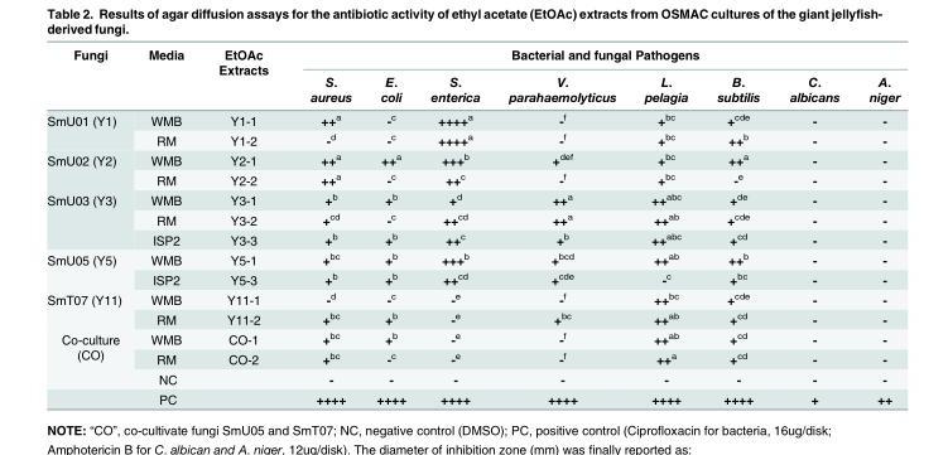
<table><thead><tr><td rowspan="2">Fungi</td><td rowspan="2">Media</td><td rowspan="2">EtOAc Extracts</td><td colspan="8">Bacterial and fungal Pathogens</td></tr><tr><td>S. aureus</td><td>E. coli</td><td>S. enterica</td><td>V. parahaemolyticus</td><td>L. pelagia</td><td>B. subtilis</td><td>C. albicans</td><td>A. niger</td></tr></thead><tbody><tr><td rowspan="2">SmU01 (Y1)</td><td>WMB</td><td>Y1-1</td><td>++<sup>a</sup></td><td>-<sup>c</sup></td><td>++++<sup>a</sup></td><td>-<sup>f</sup></td><td>+<sup>bc</sup></td><td>+<sup>cde</sup></td><td>-</td><td>-</td></tr><tr><td>RM</td><td>Y1-2</td><td>-<sup>d</sup></td><td>-<sup>c</sup></td><td>++++<sup>a</sup></td><td>-<sup>f</sup></td><td>+<sup>bc</sup></td><td>++<sup>b</sup></td><td>-</td><td>-</td></tr><tr><td rowspan="2">SmU02 (Y2)</td><td>WMB</td><td>Y2-1</td><td>++<sup>a</sup></td><td>++<sup>a</sup></td><td>+++<sup>b</sup></td><td>+<sup>def</sup></td><td>+<sup>bc</sup></td><td>++<sup>a</sup></td><td>-</td><td>-</td></tr><tr><td>RM</td><td>Y2-2</td><td>++<sup>a</sup></td><td>-<sup>c</sup></td><td>++<sup>c</sup></td><td>-<sup>f</sup></td><td>+<sup>bc</sup></td><td>-<sup>e</sup></td><td>-</td><td>-</td></tr><tr><td rowspan="3">SmU03 (Y3)</td><td>WMB</td><td>Y3-1</td><td>+<sup>b</sup></td><td>+<sup>b</sup></td><td>+<sup>d</sup></td><td>++<sup>a</sup></td><td>++<sup>abc</sup></td><td>+<sup>de</sup></td><td>-</td><td>-</td></tr><tr><td>RM</td><td>Y3-2</td><td>+<sup>cd</sup></td><td>-<sup>c</sup></td><td>++<sup>cd</sup></td><td>++<sup>a</sup></td><td>++<sup>ab</sup></td><td>+<sup>cde</sup></td><td>-</td><td>-</td></tr><tr><td>ISP2</td><td>Y3-3</td><td>+<sup>b</sup></td><td>+<sup>b</sup></td><td>++<sup>c</sup></td><td>+<sup>b</sup></td><td>++<sup>abc</sup></td><td>+<sup>cd</sup></td><td>-</td><td>-</td></tr><tr><td rowspan="2">SmU05 (Y5)</td><td>WMB</td><td>Y5-1</td><td>+<sup>bc</sup></td><td>+<sup>b</sup></td><td>+++<sup>b</sup></td><td>+<sup>bcd</sup></td><td>++<sup>ab</sup></td><td>++<sup>b</sup></td><td>-</td><td>-</td></tr><tr><td>ISP2</td><td>Y5-3</td><td>+<sup>b</sup></td><td>+<sup>b</sup></td><td>++<sup>cd</sup></td><td>+<sup>cde</sup></td><td>-<sup>c</sup></td><td>+<sup>bc</sup></td><td>-</td><td>-</td></tr><tr><td rowspan="2">SmT07 (Y11)</td><td>WMB</td><td>Y11-1</td><td>-<sup>d</sup></td><td>-<sup>c</sup></td><td>-<sup>e</sup></td><td>-<sup>f</sup></td><td>++<sup>bc</sup></td><td>+<sup>cde</sup></td><td>-</td><td>-</td></tr><tr><td>RM</td><td>Y11-2</td><td>+<sup>bc</sup></td><td>+<sup>b</sup></td><td>-<sup>e</sup></td><td>+<sup>bc</sup></td><td>++<sup>ab</sup></td><td>+<sup>cd</sup></td><td>-</td><td>-</td></tr><tr><td rowspan="2">Co-culture (CO)</td><td>WMB</td><td>CO-1</td><td>+<sup>bc</sup></td><td>+<sup>b</sup></td><td>-<sup>e</sup></td><td>-<sup>f</sup></td><td>++<sup>ab</sup></td><td>+<sup>cd</sup></td><td>-</td><td>-</td></tr><tr><td>RM</td><td>CO-2</td><td>+<sup>bc</sup></td><td>-<sup>c</sup></td><td>-<sup>e</sup></td><td>-<sup>f</sup></td><td>++<sup>a</sup></td><td>+<sup>cd</sup></td><td>-</td><td>-</td></tr><tr><td colspan="3">NC</td><td>-</td><td>-</td><td>-</td><td>-</td><td>-</td><td>-</td><td>-</td><td>-</td></tr><tr><td colspan="3">PC</td><td>++++</td><td>++++</td><td>++++</td><td>++++</td><td>++++</td><td>++++</td><td>+</td><td>++</td></tr></tbody></table>